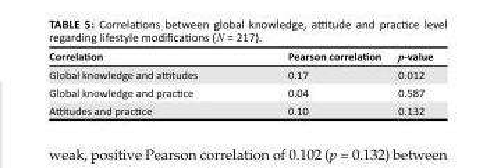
<table><thead><tr><td>Correlation</td><td>Pearson correlation</td><td>p-value</td></tr></thead><tbody><tr><td>Global knowledge and attitudes</td><td>0.17</td><td>0.012</td></tr><tr><td>Global knowledge and practice</td><td>0.04</td><td>0.587</td></tr><tr><td>Attitudes and practice</td><td>0.10</td><td>0.132</td></tr></tbody></table>